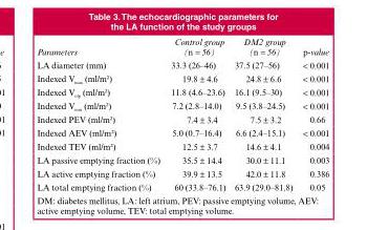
<table><thead><tr><td>Parameters</td><td>Control group (n = 56)</td><td>DM2 group (n = 56)</td><td>p-value</td></tr></thead><tbody><tr><td>LA diameter (mm)</td><td>33.3 (26–46)</td><td>37.5 (27–56)</td><td>&lt; 0.001</td></tr><tr><td>Indexed Vmax (ml/m²)</td><td>19.8 ± 4.6</td><td>24.8 ± 6.6</td><td>&lt; 0.001</td></tr><tr><td>Indexed Volp (ml/m²)</td><td>11.8 (4.6–23.6)</td><td>16.1 (9.5–30)</td><td>&lt; 0.001</td></tr><tr><td>Indexed Vmin (ml/m²)</td><td>7.2 (2.8–14.0)</td><td>9.5 (3.8–24.5)</td><td>&lt; 0.001</td></tr><tr><td>Indexed PEV (ml/m²)</td><td>7.4 ± 3.4</td><td>7.5 ± 3.2</td><td>0.66</td></tr><tr><td>Indexed AEV (ml/m²)</td><td>5.0 (0.7–16.4)</td><td>6.6 (2.4–15.1)</td><td>&lt; 0.001</td></tr><tr><td>Indexed TEV (ml/m²)</td><td>12.5 ± 3.7</td><td>14.6 ± 4.1</td><td>0.004</td></tr><tr><td>LA passive emptying fraction (%)</td><td>35.5 ± 14.4</td><td>30.0 ± 11.1</td><td>0.003</td></tr><tr><td>LA active emptying fraction (%)</td><td>39.9 ± 13.5</td><td>42.0 ± 11.8</td><td>0.386</td></tr><tr><td>LA total emptying fraction (%)</td><td>60 (33.8–76.1)</td><td>63.9 (29.0–81.8)</td><td>0.05</td></tr></tbody></table>